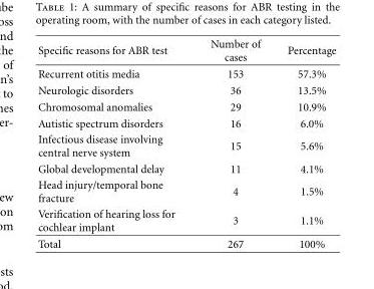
<table><thead><tr><td>Specific reasons for ABR test</td><td>Number of cases</td><td>Percentage</td></tr></thead><tbody><tr><td>Recurrent otitis media</td><td>153</td><td>57.3%</td></tr><tr><td>Neurologic disorders</td><td>36</td><td>13.5%</td></tr><tr><td>Chromosomal anomalies</td><td>29</td><td>10.9%</td></tr><tr><td>Autistic spectrum disorders</td><td>16</td><td>6.0%</td></tr><tr><td>Infectious disease involving central nerve system</td><td>15</td><td>5.6%</td></tr><tr><td>Global developmental delay</td><td>11</td><td>4.1%</td></tr><tr><td>Head injury/temporal bone fracture</td><td>4</td><td>1.5%</td></tr><tr><td>Verification of hearing loss for cochlear implant</td><td>3</td><td>1.1%</td></tr><tr><td>Total</td><td>267</td><td>100%</td></tr></tbody></table>